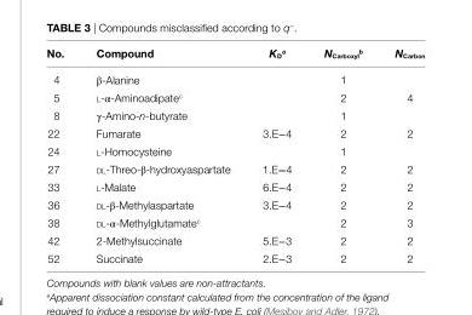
<table><thead><tr><td>no.</td><td>compound</td><td>K<sub>D</sub><sup>a</sup></td><td>N<sub>carboxyl</sub><sup>b</sup></td><td>N<sub>carbon</sub></td></tr></thead><tbody><tr><td>4</td><td>β-Alanine</td><td></td><td>1</td><td></td></tr><tr><td>5</td><td>l-α-Aminoadipate<sup>c</sup></td><td></td><td>2</td><td>4</td></tr><tr><td>8</td><td>γ-Amino-n-butyrate</td><td></td><td>1</td><td></td></tr><tr><td>22</td><td>Fumarate</td><td>3.E−4</td><td>2</td><td>2</td></tr><tr><td>24</td><td>l-Homocysteine</td><td></td><td>1</td><td></td></tr><tr><td>27</td><td>dl-Threo-β-hydroxyaspartate</td><td>1.E−4</td><td>2</td><td>2</td></tr><tr><td>33</td><td>l-Malate</td><td>6.E−4</td><td>2</td><td>2</td></tr><tr><td>36</td><td>dl-β-Methylaspartate</td><td>3.E−4</td><td>2</td><td>2</td></tr><tr><td>38</td><td>dl-α-Methylglutamate<sup>c</sup></td><td></td><td>2</td><td>3</td></tr><tr><td>42</td><td>2-Methylsuccinate</td><td>5.E−3</td><td>2</td><td>2</td></tr><tr><td>52</td><td>Succinate</td><td>2.E−3</td><td>2</td><td>2</td></tr></tbody></table>